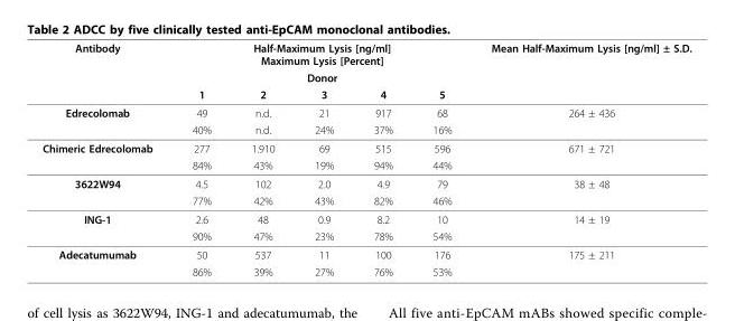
<table><thead><tr><td rowspan="3">Antibody</td><td rowspan="2" colspan="5">Half-Maximum Lysis [ng/ml] Maximum Lysis [Percent] Donor</td><td rowspan="3">Mean Half-Maximum Lysis [ng/ml] ± S.D.</td></tr><tr></tr><tr><td>1</td><td>2</td><td>3</td><td>4</td><td>5</td></tr></thead><tbody><tr><td rowspan="2">Edrecolomab</td><td>49</td><td>n.d.</td><td>21</td><td>917</td><td>68</td><td>264 ± 436</td></tr><tr><td>40%</td><td>n.d.</td><td>24%</td><td>37%</td><td>16%</td><td></td></tr><tr><td rowspan="2">Chimeric Edrecolomab</td><td>277</td><td>1.910</td><td>69</td><td>515</td><td>596</td><td>671 ± 721</td></tr><tr><td>84%</td><td>43%</td><td>19%</td><td>94%</td><td>44%</td><td></td></tr><tr><td rowspan="2">3622W94</td><td>4.5</td><td>102</td><td>2.0</td><td>4.9</td><td>79</td><td>38 ± 48</td></tr><tr><td>77%</td><td>42%</td><td>43%</td><td>82%</td><td>46%</td><td></td></tr><tr><td rowspan="2">ING-1</td><td>2.6</td><td>48</td><td>0.9</td><td>8.2</td><td>10</td><td>14 ± 19</td></tr><tr><td>90%</td><td>47%</td><td>23%</td><td>78%</td><td>54%</td><td></td></tr><tr><td rowspan="2">Adecatumumab</td><td>50</td><td>537</td><td>11</td><td>100</td><td>176</td><td>175 ± 211</td></tr><tr><td>86%</td><td>39%</td><td>27%</td><td>76%</td><td>53%</td><td></td></tr></tbody></table>